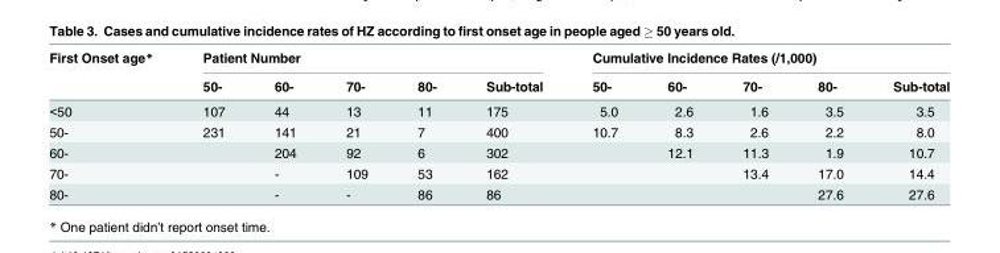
<table><thead><tr><td rowspan="2">First Onset age*</td><td colspan="5">Patient Number</td><td colspan="5">Cumulative Incidence Rates (/1,000)</td></tr><tr><td>50-</td><td>60-</td><td>70-</td><td>80-</td><td>Sub-total</td><td>50-</td><td>60-</td><td>70-</td><td>80-</td><td>Sub-total</td></tr></thead><tbody><tr><td>&lt;50</td><td>107</td><td>44</td><td>13</td><td>11</td><td>175</td><td>5.0</td><td>2.6</td><td>1.6</td><td>3.5</td><td>3.5</td></tr><tr><td>50-</td><td>231</td><td>141</td><td>21</td><td>7</td><td>400</td><td>10.7</td><td>8.3</td><td>2.6</td><td>2.2</td><td>8.0</td></tr><tr><td>60-</td><td></td><td>204</td><td>92</td><td>6</td><td>302</td><td></td><td>12.1</td><td>11.3</td><td>1.9</td><td>10.7</td></tr><tr><td>70-</td><td></td><td>-</td><td>109</td><td>53</td><td>162</td><td></td><td></td><td>13.4</td><td>17.0</td><td>14.4</td></tr><tr><td>80-</td><td></td><td>-</td><td>-</td><td>86</td><td>86</td><td></td><td></td><td></td><td>27.6</td><td>27.6</td></tr></tbody></table>